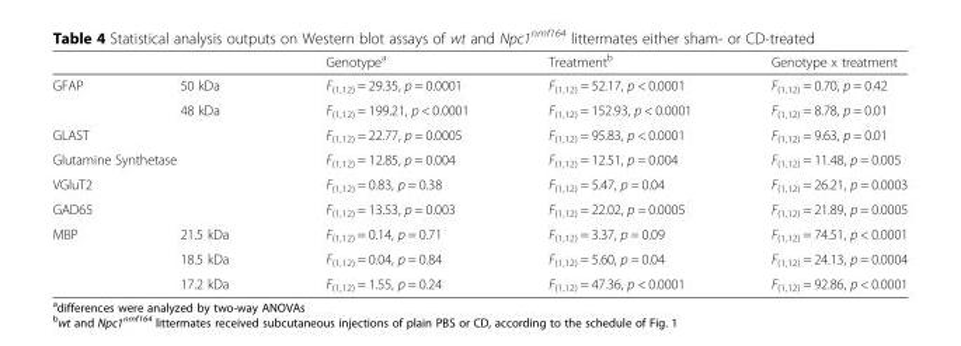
<table><thead><tr><td></td><td></td><td>Genotype<sup>a</sup></td><td>Treatment<sup>b</sup></td><td>Genotype x treatment</td></tr></thead><tbody><tr><td rowspan="2">GFAP</td><td>50 kDa</td><td>F<sub>(1,12)</sub> = 29.35, p = 0.0001</td><td>F<sub>(1,12)</sub> = 52.17, p &lt; 0.0001</td><td>F<sub>(1,12)</sub> = 0.70, p = 0.42</td></tr><tr><td>48 kDa</td><td>F<sub>(1,12)</sub> = 199.21, p &lt; 0.0001</td><td>F<sub>(1,12)</sub> = 152.93, p &lt; 0.0001</td><td>F<sub>(1,12)</sub> = 8.78, p = 0.01</td></tr><tr><td colspan="2">GLAST</td><td>F<sub>(1,12)</sub> = 22.77, p = 0.0005</td><td>F<sub>(1,12)</sub> = 95.83, p &lt; 0.0001</td><td>F<sub>(1,12)</sub> = 9.63, p = 0.01</td></tr><tr><td colspan="2">Glutamine Synthetase</td><td>F<sub>(1,12)</sub> = 12.85, p = 0.004</td><td>F<sub>(1,12)</sub> = 12.51, p = 0.004</td><td>F<sub>(1,12)</sub> = 11.48, p = 0.005</td></tr><tr><td colspan="2">VGluT2</td><td>F<sub>(1,12)</sub> = 0.83, p = 0.38</td><td>F<sub>(1,12)</sub> = 5.47, p = 0.04</td><td>F<sub>(1,12)</sub> = 26.21, p = 0.0003</td></tr><tr><td colspan="2">GAD65</td><td>F<sub>(1,12)</sub> = 13.53, p = 0.003</td><td>F<sub>(1,12)</sub> = 22.02, p = 0.0005</td><td>F<sub>(1,12)</sub> = 21.89, p = 0.0005</td></tr><tr><td rowspan="3">MBP</td><td>21.5 kDa</td><td>F<sub>(1,12)</sub> = 0.14, p = 0.71</td><td>F<sub>(1,12)</sub> = 3.37, p = 0.09</td><td>F<sub>(1,12)</sub> = 74.51, p &lt; 0.0001</td></tr><tr><td>18.5 kDa</td><td>F<sub>(1,12)</sub> = 0.04, p = 0.84</td><td>F<sub>(1,12)</sub> = 5.60, p = 0.04</td><td>F<sub>(1,12)</sub> = 24.13, p = 0.0004</td></tr><tr><td>17.2 kDa</td><td>F<sub>(1,12)</sub> = 1.55, p = 0.24</td><td>F<sub>(1,12)</sub> = 47.36, p &lt; 0.0001</td><td>F<sub>(1,12)</sub> = 92.86, p &lt; 0.0001</td></tr></tbody></table>